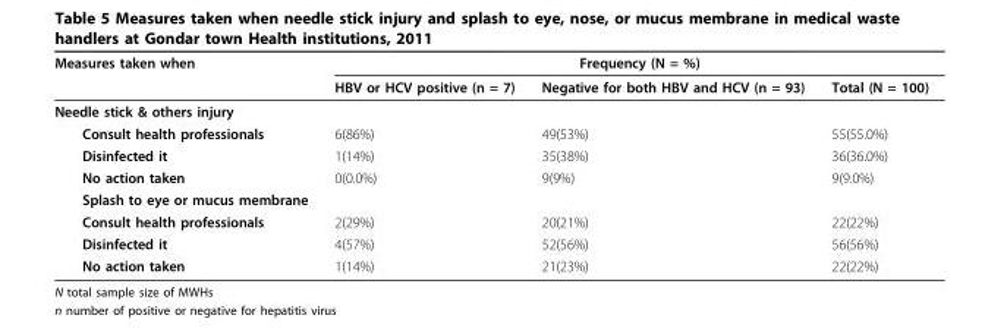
<table><thead><tr><td rowspan="2">Measures taken when</td><td colspan="3">Frequency (N = %)</td></tr><tr><td>HBV or HCV positive (n = 7)</td><td>Negative for both HBV and HCV (n = 93)</td><td>Total (N = 100)</td></tr></thead><tbody><tr><td colspan="4">Needle stick &amp; others injury</td></tr><tr><td>Consult health professionals</td><td>6(86%)</td><td>49(53%)</td><td>55(55.0%)</td></tr><tr><td>Disinfected it</td><td>1(14%)</td><td>35(38%)</td><td>36(36.0%)</td></tr><tr><td>No action taken</td><td>0(0.0%)</td><td>9(9%)</td><td>9(9.0%)</td></tr><tr><td colspan="4">Splash to eye or mucus membrane</td></tr><tr><td>Consult health professionals</td><td>2(29%)</td><td>20(21%)</td><td>22(22%)</td></tr><tr><td>Disinfected it</td><td>4(57%)</td><td>52(56%)</td><td>56(56%)</td></tr><tr><td>No action taken</td><td>1(14%)</td><td>21(23%)</td><td>22(22%)</td></tr></tbody></table>